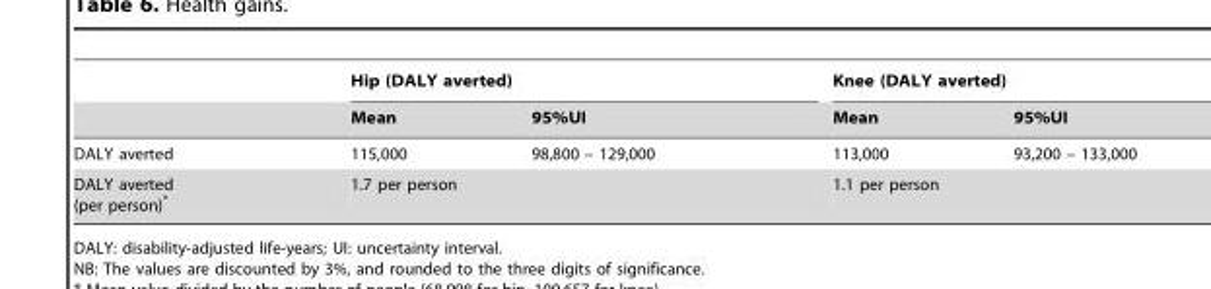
<table><thead><tr><td rowspan="2"></td><td colspan="2">Hip (DALY averted)</td><td colspan="2">Knee (DALY averted)</td></tr><tr><td>Mean</td><td>95%UI</td><td>Mean</td><td>95%UI</td></tr></thead><tbody><tr><td>DALY averted</td><td>115,000</td><td>98,800 – 129,000</td><td>113,000</td><td>93,200 – 133,000</td></tr><tr><td>DALY averted (per person)*</td><td colspan="2">1.7 per person</td><td colspan="2">1.1 per person</td></tr></tbody></table>